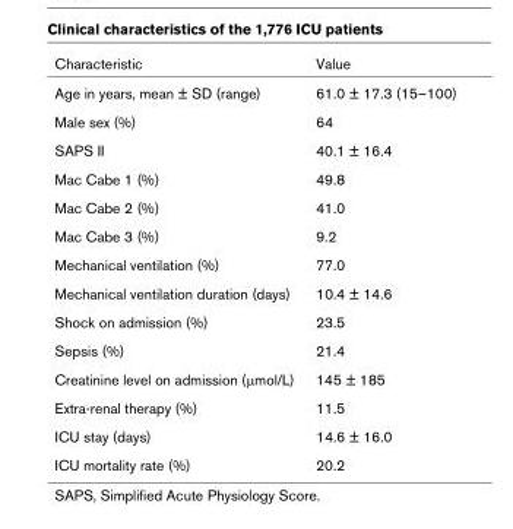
<table><thead><tr><td>Characteristic</td><td>Value</td></tr></thead><tbody><tr><td>Age in years, mean ± SD (range)</td><td>61.0 ± 17.3 (15–100)</td></tr><tr><td>Male sex (%)</td><td>64</td></tr><tr><td>SAPS II</td><td>40.1 ± 16.4</td></tr><tr><td>Mac Cabe 1 (%)</td><td>49.8</td></tr><tr><td>Mac Cabe 2 (%)</td><td>41.0</td></tr><tr><td>Mac Cabe 3 (%)</td><td>9.2</td></tr><tr><td>Mechanical ventilation (%)</td><td>77.0</td></tr><tr><td>Mechanical ventilation duration (days)</td><td>10.4 ± 14.6</td></tr><tr><td>Shock on admission (%)</td><td>23.5</td></tr><tr><td>Sepsis (%)</td><td>21.4</td></tr><tr><td>Creatinine level on admission (µmol/L)</td><td>145 ± 185</td></tr><tr><td>Extra-renal therapy (%)</td><td>11.5</td></tr><tr><td>ICU stay (days)</td><td>14.6 ± 16.0</td></tr><tr><td>ICU mortality rate (%)</td><td>20.2</td></tr></tbody></table>